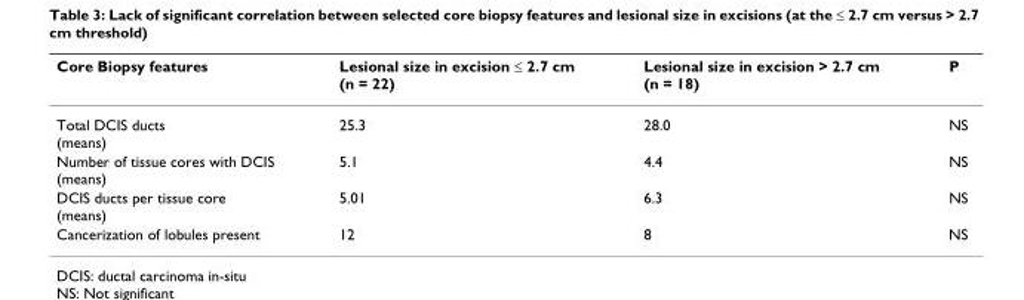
<table><thead><tr><td>Core Biopsy features</td><td>Lesional size in excision ≤ 2.7 cm (n = 22)</td><td>Lesional size in excision &gt; 2.7 cm (n = 18)</td><td>P</td></tr></thead><tbody><tr><td>Total DCIS ducts (means)</td><td>25.3</td><td>28.0</td><td>NS</td></tr><tr><td>Number of tissue cores with DCIS (means)</td><td>5.1</td><td>4.4</td><td>NS</td></tr><tr><td>DCIS ducts per tissue core (means)</td><td>5.01</td><td>6.3</td><td>NS</td></tr><tr><td>Cancerization of lobules present</td><td>12</td><td>8</td><td>NS</td></tr></tbody></table>